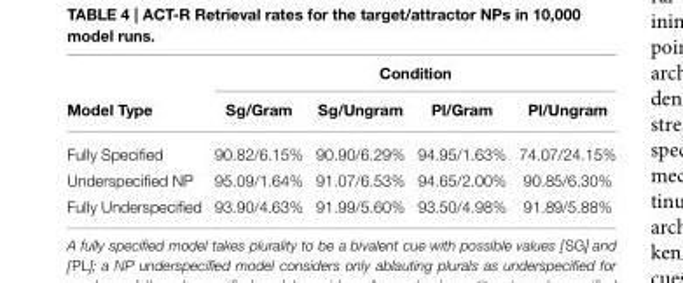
<table><thead><tr><td rowspan="2">Model Type</td><td colspan="4">Condition</td></tr><tr><td>Sg/Gram</td><td>Sg/Ungram</td><td>Pl/Gram</td><td>Pl/Ungram</td></tr></thead><tbody><tr><td>Fully Specified</td><td>90.82/6.15%</td><td>90.90/6.29%</td><td>94.95/1.63%</td><td>74.07/24.15%</td></tr><tr><td>Underspecified NP</td><td>95.09/1.64%</td><td>91.07/6.53%</td><td>94.65/2.00%</td><td>90.85/6.30%</td></tr><tr><td>Fully Underspecified</td><td>93.90/4.63%</td><td>91.99/5.60%</td><td>93.50/4.98%</td><td>91.89/5.88%</td></tr></tbody></table>